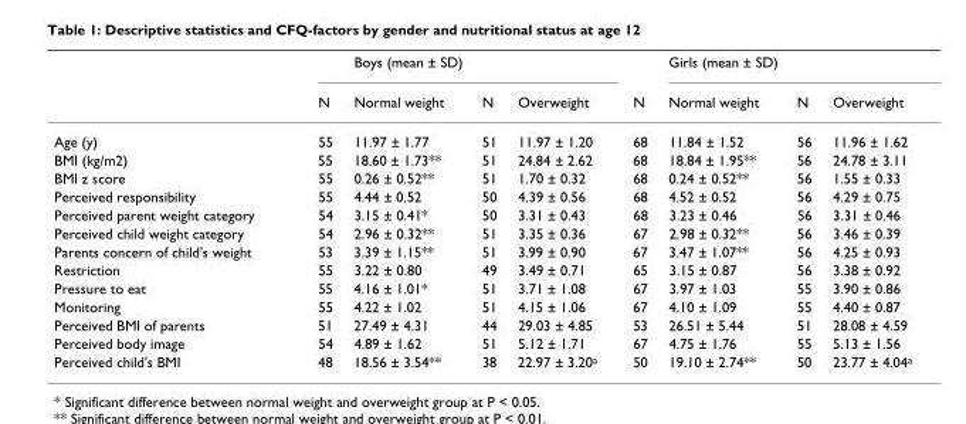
<table><thead><tr><td rowspan="2"></td><td rowspan="2">N</td><td colspan="3">Boys (mean ± SD)</td><td rowspan="2">N</td><td colspan="3">Girls (mean ± SD)</td></tr><tr><td>Normal weight</td><td>N</td><td>Overweight</td><td>Normal weight</td><td>N</td><td>Overweight</td></tr></thead><tbody><tr><td>Age (y)</td><td>55</td><td>11.97 ± 1.77</td><td>51</td><td>11.97 ± 1.20</td><td>68</td><td>11.84 ± 1.52</td><td>56</td><td>11.96 ± 1.62</td></tr><tr><td>BMI (kg/m2)</td><td>55</td><td>18.60 ± 1.73**</td><td>51</td><td>24.84 ± 2.62</td><td>68</td><td>18.84 ± 1.95**</td><td>56</td><td>24.78 ± 3.11</td></tr><tr><td>BMI z score</td><td>55</td><td>0.26 ± 0.52**</td><td>51</td><td>1.70 ± 0.32</td><td>68</td><td>0.24 ± 0.52**</td><td>56</td><td>1.55 ± 0.33</td></tr><tr><td>Perceived responsibility</td><td>55</td><td>4.44 ± 0.52</td><td>50</td><td>4.39 ± 0.56</td><td>68</td><td>4.52 ± 0.52</td><td>56</td><td>4.29 ± 0.75</td></tr><tr><td>Perceived parent weight category</td><td>54</td><td>3.15 ± 0.41*</td><td>50</td><td>3.31 ± 0.43</td><td>68</td><td>3.23 ± 0.46</td><td>56</td><td>3.31 ± 0.46</td></tr><tr><td>Perceived child weight category</td><td>54</td><td>2.96 ± 0.32**</td><td>51</td><td>3.35 ± 0.36</td><td>67</td><td>2.98 ± 0.32**</td><td>56</td><td>3.46 ± 0.39</td></tr><tr><td>Parents concern of child&#x27;s weight</td><td>53</td><td>3.39 ± 1.15**</td><td>51</td><td>3.99 ± 0.90</td><td>67</td><td>3.47 ± 1.07**</td><td>56</td><td>4.25 ± 0.93</td></tr><tr><td>Restriction</td><td>55</td><td>3.22 ± 0.80</td><td>49</td><td>3.49 ± 0.71</td><td>65</td><td>3.15 ± 0.87</td><td>56</td><td>3.38 ± 0.92</td></tr><tr><td>Pressure to eat</td><td>55</td><td>4.16 ± 1.01*</td><td>51</td><td>3.71 ± 1.08</td><td>67</td><td>3.97 ± 1.03</td><td>55</td><td>3.90 ± 0.86</td></tr><tr><td>Monitoring</td><td>55</td><td>4.22 ± 1.02</td><td>51</td><td>4.15 ± 1.06</td><td>67</td><td>4.10 ± 1.09</td><td>55</td><td>4.40 ± 0.87</td></tr><tr><td>Perceived BMI of parents</td><td>51</td><td>27.49 ± 4.31</td><td>44</td><td>29.03 ± 4.85</td><td>53</td><td>26.51 ± 5.44</td><td>51</td><td>28.08 ± 4.59</td></tr><tr><td>Perceived body image</td><td>54</td><td>4.89 ± 1.62</td><td>51</td><td>5.12 ± 1.71</td><td>67</td><td>4.75 ± 1.76</td><td>55</td><td>5.13 ± 1.56</td></tr><tr><td>Perceived child&#x27;s BMI</td><td>48</td><td>18.56 ± 3.54**</td><td>38</td><td>22.97 ± 3.20<sup>a</sup></td><td>50</td><td>19.10 ± 2.74**</td><td>50</td><td>23.77 ± 4.04<sup>a</sup></td></tr></tbody></table>